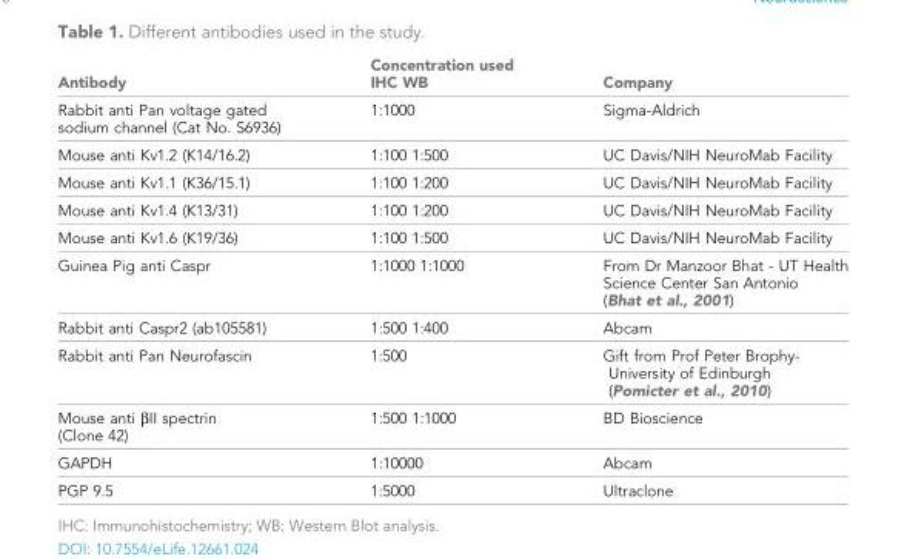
<table><thead><tr><td>Antibody</td><td>Concentration used IHC WB</td><td>Company</td></tr></thead><tbody><tr><td>Rabbit anti Pan voltage gated sodium channel (Cat No. S6936)</td><td>1:1000</td><td>Sigma-Aldrich</td></tr><tr><td>Mouse anti Kv1.2 (K14/16.2)</td><td>1:100 1:500</td><td>UC Davis/NIH NeuroMab Facility</td></tr><tr><td>Mouse anti Kv1.1 (K36/15.1)</td><td>1:100 1:200</td><td>UC Davis/NIH NeuroMab Facility</td></tr><tr><td>Mouse anti Kv1.4 (K13/31)</td><td>1:100 1:200</td><td>UC Davis/NIH NeuroMab Facility</td></tr><tr><td>Mouse anti Kv1.6 (K19/36)</td><td>1:100 1:500</td><td>UC Davis/NIH NeuroMab Facility</td></tr><tr><td>Guinea Pig anti Caspr</td><td>1:1000 1:1000</td><td>From Dr Manzoor Bhat - UT Health Science Center San Antonio (Bhat et al., 2001)</td></tr><tr><td>Rabbit anti Caspr2 (ab105581)</td><td>1:500 1:400</td><td>Abcam</td></tr><tr><td>Rabbit anti Pan Neurofascin</td><td>1:500</td><td>Gift from Prof Peter Brophy- University of Edinburgh (Pomicter et al., 2010)</td></tr><tr><td>Mouse anti βII spectrin (Clone 42)</td><td>1:500 1:1000</td><td>BD Bioscience</td></tr><tr><td>GAPDH</td><td>1:10000</td><td>Abcam</td></tr><tr><td>PGP 9.5</td><td>1:5000</td><td>Ultraclone</td></tr></tbody></table>